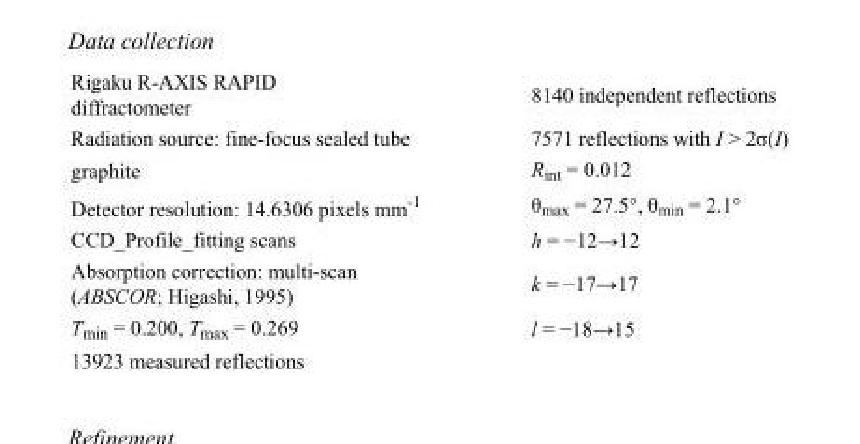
<table><tbody><tr><td>Rigaku R-AXIS RAPID diffractometer</td><td>8140 independent reflections</td></tr><tr><td>Radiation source: fine-focus sealed tube</td><td>7571 reflections with I &gt; 2σ(I)</td></tr><tr><td>graphite</td><td>R<sub>int</sub> = 0.012</td></tr><tr><td>Detector resolution: 14.6306 pixels mm<sup>-1</sup></td><td>θ<sub>max</sub> = 27.5°, θ<sub>min</sub> = 2.1°</td></tr><tr><td>CCD_Profile_fitting scans</td><td>h = −12→12</td></tr><tr><td>Absorption correction: multi-scan (ABSCOR; Higashi, 1995)</td><td>k = −17→17</td></tr><tr><td>T<sub>min</sub> = 0.200, T<sub>max</sub> = 0.269</td><td>l = −18→15</td></tr><tr><td>13923 measured reflections</td><td></td></tr></tbody></table>